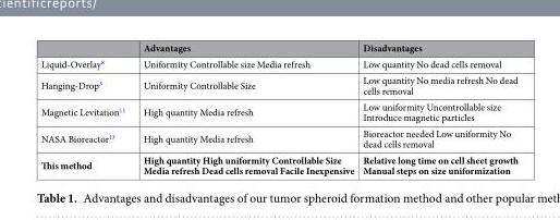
<table><thead><tr><td></td><td>Advantages</td><td>Disadvantages</td></tr></thead><tbody><tr><td>Liquid-Overlay<sup>8</sup></td><td>Uniformity Controllable size Media refresh</td><td>Low quantity No dead cells removal</td></tr><tr><td>Hanging-Drop<sup>3</sup></td><td>Uniformity Controllable Size</td><td>Low quantity No media refresh No dead cells removal</td></tr><tr><td>Magnetic Levitation<sup>11</sup></td><td>High quantity Media refresh</td><td>Low uniformity Uncontrollable size Introduce magnetic particles</td></tr><tr><td>NASA Bioreactor<sup>13</sup></td><td>High quantity Media refresh</td><td>Bioreactor needed Low uniformity No dead cells removal</td></tr><tr><td>This method</td><td>High quantity High uniformity Controllable Size Media refresh Dead cells removal Facile Inexpensive</td><td>Relative long time on cell sheet growth Manual steps on size uniformization</td></tr></tbody></table>